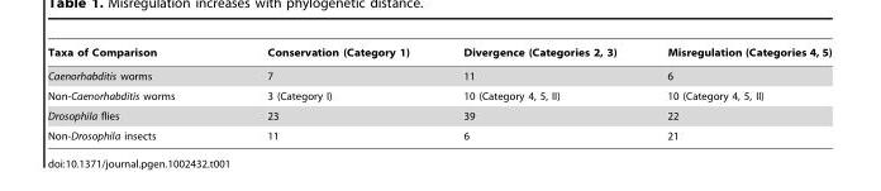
<table><thead><tr><td>Taxa of Comparison</td><td>Conservation (Category 1)</td><td>Divergence (Categories 2, 3)</td><td>Misregulation (Categories 4, 5)</td></tr></thead><tbody><tr><td>Caenorhabditis worms</td><td>7</td><td>11</td><td>6</td></tr><tr><td>Non-Caenorhabditis worms</td><td>3 (Category I)</td><td>10 (Category 4, 5, II)</td><td>10 (Category 4, 5, II)</td></tr><tr><td>Drosophila flies</td><td>23</td><td>39</td><td>22</td></tr><tr><td>Non-Drosophila insects</td><td>11</td><td>6</td><td>21</td></tr></tbody></table>